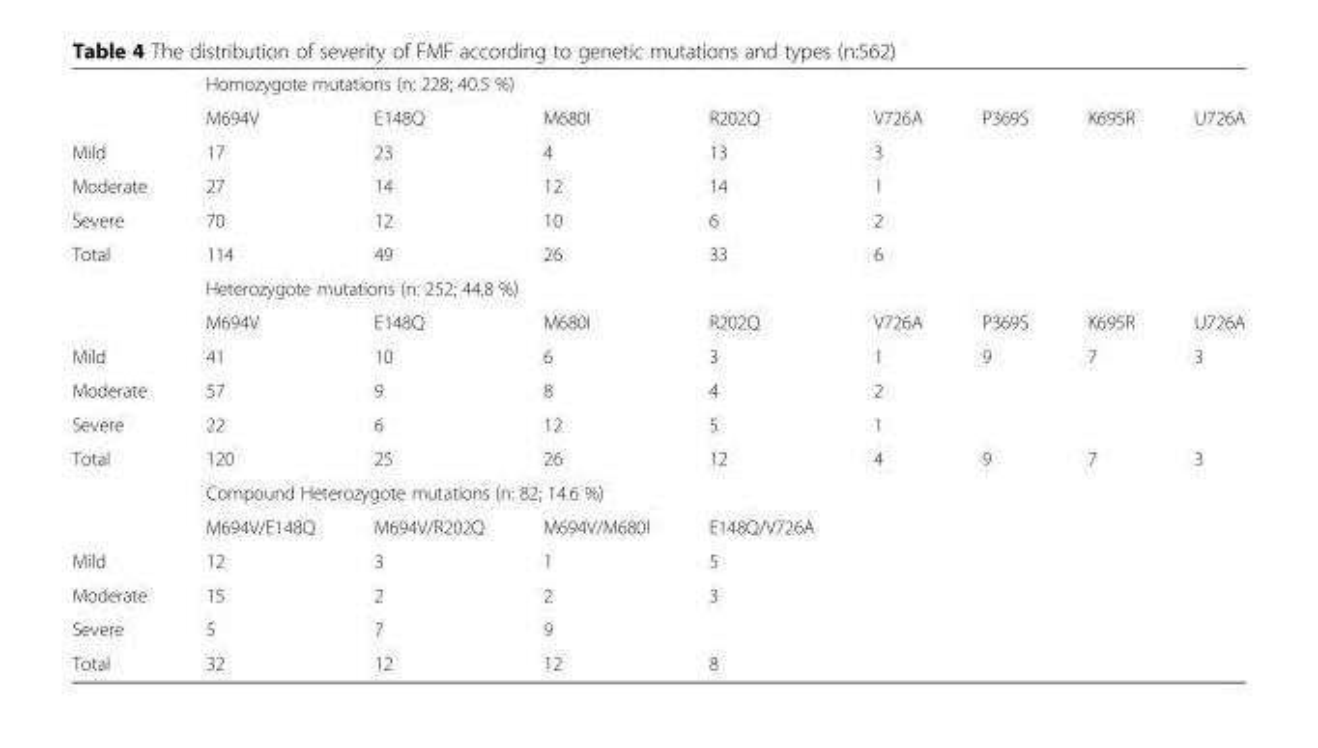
<table><thead><tr><td rowspan="2"></td><td colspan="8">Homozygote mutations (n: 228; 40.5 %)</td></tr><tr><td>M694V</td><td>E148Q</td><td>M680I</td><td>R202Q</td><td>V726A</td><td>P369S</td><td>K695R</td><td>U726A</td></tr></thead><tbody><tr><td>Mild</td><td>17</td><td>23</td><td>4</td><td>13</td><td>3</td><td></td><td></td><td></td></tr><tr><td>Moderate</td><td>27</td><td>14</td><td>12</td><td>14</td><td>1</td><td></td><td></td><td></td></tr><tr><td>Severe</td><td>70</td><td>12</td><td>10</td><td>6</td><td>2</td><td></td><td></td><td></td></tr><tr><td rowspan="3">Total</td><td>114</td><td>49</td><td>26</td><td>33</td><td>6</td><td></td><td></td><td></td></tr><tr><td colspan="8">Heterozygote mutations (n: 252; 44.8 %)</td></tr><tr><td>M694V</td><td>E148Q</td><td>M680I</td><td>R202Q</td><td>V726A</td><td>P369S</td><td>K695R</td><td>U726A</td></tr><tr><td>Mild</td><td>41</td><td>10</td><td>6</td><td>3</td><td>1</td><td>9</td><td>7</td><td>3</td></tr><tr><td>Moderate</td><td>57</td><td>9</td><td>8</td><td>4</td><td>2</td><td></td><td></td><td></td></tr><tr><td>Severe</td><td>22</td><td>6</td><td>12</td><td>5</td><td>1</td><td></td><td></td><td></td></tr><tr><td rowspan="3">Total</td><td>120</td><td>25</td><td>26</td><td>12</td><td>4</td><td>9</td><td>7</td><td>3</td></tr><tr><td colspan="8">Compound Heterozygote mutations (n: 82; 14.6 %)</td></tr><tr><td>M694V/E148Q</td><td>M694V/R202Q</td><td>M694V/M680I</td><td>E148Q/V726A</td><td></td><td></td><td></td><td></td></tr><tr><td>Mild</td><td>12</td><td>3</td><td>1</td><td>5</td><td></td><td></td><td></td><td></td></tr><tr><td>Moderate</td><td>15</td><td>2</td><td>2</td><td>3</td><td></td><td></td><td></td><td></td></tr><tr><td>Severe</td><td>5</td><td>7</td><td>9</td><td></td><td></td><td></td><td></td><td></td></tr><tr><td>Total</td><td>32</td><td>12</td><td>12</td><td>8</td><td></td><td></td><td></td><td></td></tr></tbody></table>